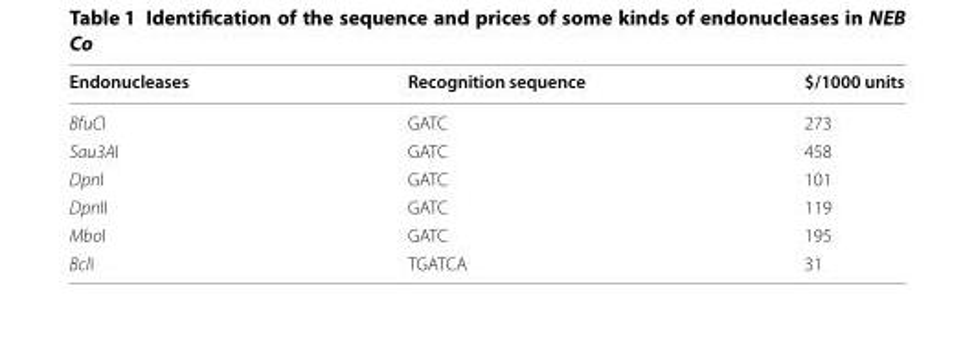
<table><thead><tr><td>Endonucleases</td><td>Recognition sequence</td><td>$/1000 units</td></tr></thead><tbody><tr><td>BfuCI</td><td>GATC</td><td>273</td></tr><tr><td>Sau3AI</td><td>GATC</td><td>458</td></tr><tr><td>DpnI</td><td>GATC</td><td>101</td></tr><tr><td>DpnII</td><td>GATC</td><td>119</td></tr><tr><td>MboI</td><td>GATC</td><td>195</td></tr><tr><td>BclI</td><td>TGATCA</td><td>31</td></tr></tbody></table>